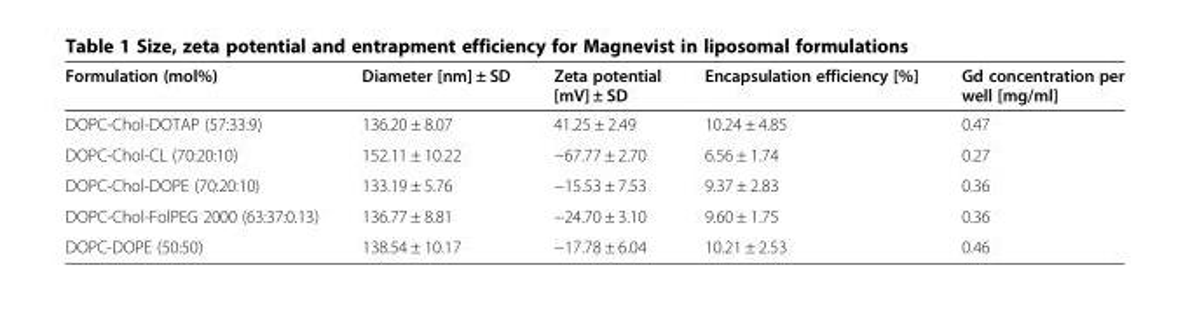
<table><thead><tr><td>Formulation (mol%)</td><td>Diameter [nm] ± SD</td><td>Zeta potential [mV] ± SD</td><td>Encapsulation efficiency [%]</td><td>Gd concentration per well [mg/ml]</td></tr></thead><tbody><tr><td>DOPC-Chol-DOTAP (57:33:9)</td><td>136.20 ± 8.07</td><td>41.25 ± 2.49</td><td>10.24 ± 4.85</td><td>0.47</td></tr><tr><td>DOPC-Chol-CL (70:20:10)</td><td>152.11 ± 10.22</td><td>−67.77 ± 2.70</td><td>6.56 ± 1.74</td><td>0.27</td></tr><tr><td>DOPC-Chol-DOPE (70:20:10)</td><td>133.19 ± 5.76</td><td>−15.53 ± 7.53</td><td>9.37 ± 2.83</td><td>0.36</td></tr><tr><td>DOPC-Chol-FolPEG 2000 (63:37:0.13)</td><td>136.77 ± 8.81</td><td>−24.70 ± 3.10</td><td>9.60 ± 1.75</td><td>0.36</td></tr><tr><td>DOPC-DOPE (50:50)</td><td>138.54 ± 10.17</td><td>−17.78 ± 6.04</td><td>10.21 ± 2.53</td><td>0.46</td></tr></tbody></table>